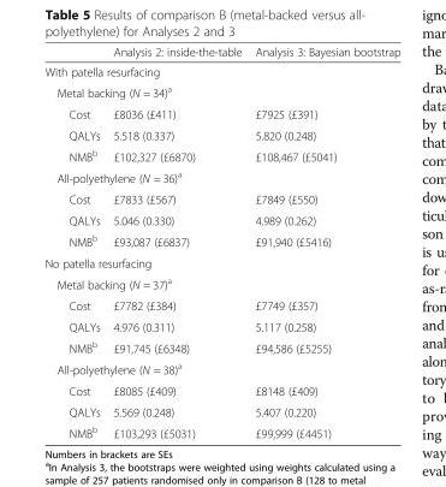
<table><thead><tr><td></td><td>Analysis 2: inside-the-table</td><td>Analysis 3: Bayesian bootstrap</td></tr></thead><tbody><tr><td colspan="3">With patella resurfacing</td></tr><tr><td colspan="3">Metal backing (N = 34)<sup>a</sup></td></tr><tr><td>Cost</td><td>£8036 (£411)</td><td>£7925 (£391)</td></tr><tr><td>QALYs</td><td>5.518 (0.337)</td><td>5.820 (0.248)</td></tr><tr><td>NMB<sup>b</sup></td><td>£102,327 (£6870)</td><td>£108,467 (£5041)</td></tr><tr><td colspan="3">All-polyethylene (N = 36)<sup>a</sup></td></tr><tr><td>Cost</td><td>£7833 (£567)</td><td>£7849 (£550)</td></tr><tr><td>QALYs</td><td>5.046 (0.330)</td><td>4.989 (0.262)</td></tr><tr><td>NMB<sup>b</sup></td><td>£93,087 (£6837)</td><td>£91,940 (£5416)</td></tr><tr><td colspan="3">No patella resurfacing</td></tr><tr><td colspan="3">Metal backing (N = 37)<sup>a</sup></td></tr><tr><td>Cost</td><td>£7782 (£384)</td><td>£7749 (£357)</td></tr><tr><td>QALYs</td><td>4.976 (0.311)</td><td>5.117 (0.258)</td></tr><tr><td>NMB<sup>b</sup></td><td>£91,745 (£6348)</td><td>£94,586 (£5255)</td></tr><tr><td colspan="3">All-polyethylene (N = 38)<sup>a</sup></td></tr><tr><td>Cost</td><td>£8085 (£409)</td><td>£8148 (£409)</td></tr><tr><td>QALYs</td><td>5.569 (0.248)</td><td>5.407 (0.220)</td></tr><tr><td>NMB<sup>b</sup></td><td>£103,293 (£5031)</td><td>£99,999 (£4451)</td></tr></tbody></table>